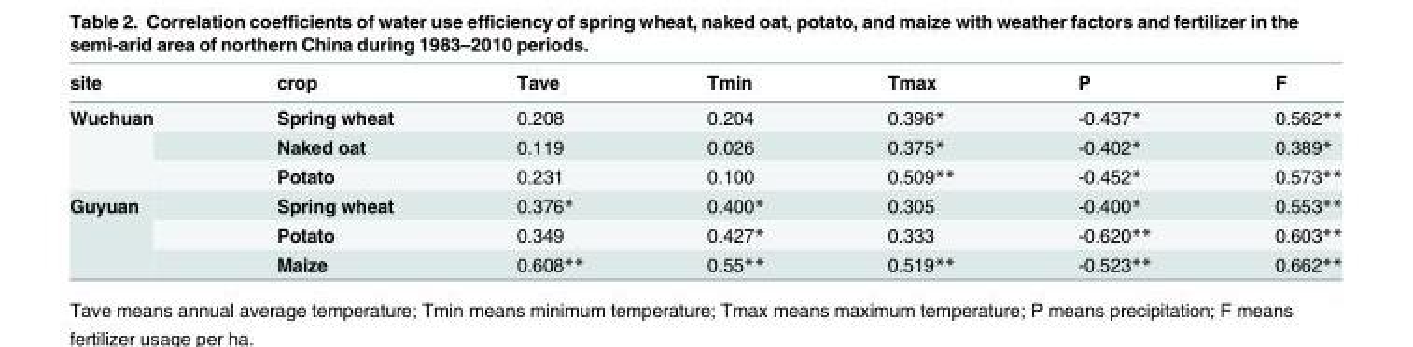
<table><thead><tr><td>site</td><td>crop</td><td>Tave</td><td>Tmin</td><td>Tmax</td><td>P</td><td>F</td></tr></thead><tbody><tr><td rowspan="3">Wuchuan</td><td>Spring wheat</td><td>0.208</td><td>0.204</td><td>0.396*</td><td>-0.437*</td><td>0.562**</td></tr><tr><td>Naked oat</td><td>0.119</td><td>0.026</td><td>0.375*</td><td>-0.402*</td><td>0.389*</td></tr><tr><td>Potato</td><td>0.231</td><td>0.100</td><td>0.509**</td><td>-0.452*</td><td>0.573**</td></tr><tr><td rowspan="3">Guyuan</td><td>Spring wheat</td><td>0.376*</td><td>0.400*</td><td>0.305</td><td>-0.400*</td><td>0.553**</td></tr><tr><td>Potato</td><td>0.349</td><td>0.427*</td><td>0.333</td><td>-0.620**</td><td>0.603**</td></tr><tr><td>Maize</td><td>0.608**</td><td>0.55**</td><td>0.519**</td><td>-0.523**</td><td>0.662**</td></tr></tbody></table>